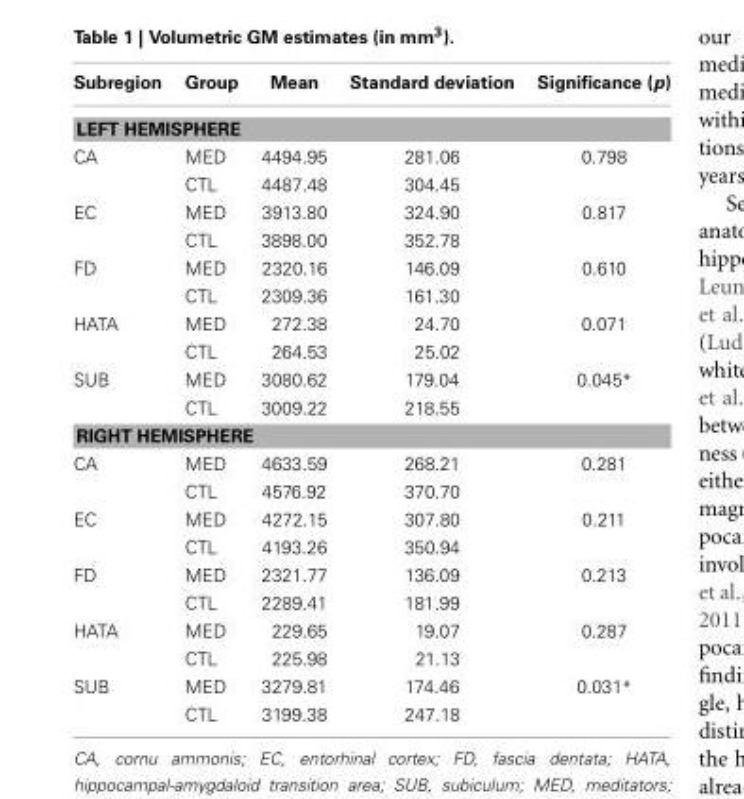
<table><thead><tr><td>Subregion</td><td>Group</td><td>Mean</td><td>Standard deviation</td><td>Significance (p)</td></tr></thead><tbody><tr><td colspan="5">LEFT HEMISPHERE</td></tr><tr><td rowspan="2">CA</td><td>MED</td><td>4494.95</td><td>281.06</td><td>0.798</td></tr><tr><td>CTL</td><td>4487.48</td><td>304.45</td><td></td></tr><tr><td rowspan="2">EC</td><td>MED</td><td>3913.80</td><td>324.90</td><td>0.817</td></tr><tr><td>CTL</td><td>3898.00</td><td>352.78</td><td></td></tr><tr><td rowspan="2">FD</td><td>MED</td><td>2320.16</td><td>146.09</td><td>0.610</td></tr><tr><td>CTL</td><td>2309.36</td><td>161.30</td><td></td></tr><tr><td rowspan="2">HATA</td><td>MED</td><td>272.38</td><td>24.70</td><td>0.071</td></tr><tr><td>CTL</td><td>264.53</td><td>25.02</td><td></td></tr><tr><td rowspan="2">SUB</td><td>MED</td><td>3080.62</td><td>179.04</td><td>0.045*</td></tr><tr><td>CTL</td><td>3009.22</td><td>218.55</td><td></td></tr><tr><td colspan="5">RIGHT HEMISPHERE</td></tr><tr><td rowspan="2">CA</td><td>MED</td><td>4633.59</td><td>268.21</td><td>0.281</td></tr><tr><td>CTL</td><td>4576.92</td><td>370.70</td><td></td></tr><tr><td rowspan="2">EC</td><td>MED</td><td>4272.15</td><td>307.80</td><td>0.211</td></tr><tr><td>CTL</td><td>4193.26</td><td>350.94</td><td></td></tr><tr><td rowspan="2">FD</td><td>MED</td><td>2321.77</td><td>136.09</td><td>0.213</td></tr><tr><td>CTL</td><td>2289.41</td><td>181.99</td><td></td></tr><tr><td rowspan="2">HATA</td><td>MED</td><td>229.65</td><td>19.07</td><td>0.287</td></tr><tr><td>CTL</td><td>225.98</td><td>21.13</td><td></td></tr><tr><td rowspan="2">SUB</td><td>MED</td><td>3279.81</td><td>174.46</td><td>0.031*</td></tr><tr><td>CTL</td><td>3199.38</td><td>247.18</td><td></td></tr></tbody></table>